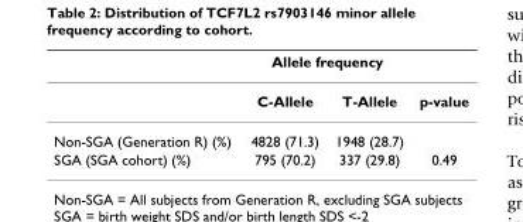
<table><thead><tr><td rowspan="2"></td><td colspan="2">Allele frequency</td><td rowspan="2">p-value</td></tr><tr><td>C-Allele</td><td>T-Allele</td></tr></thead><tbody><tr><td>Non-SGA (Generation R) (%)</td><td>4828 (71.3)</td><td>1948 (28.7)</td><td></td></tr><tr><td>SGA (SGA cohort) (%)</td><td>795 (70.2)</td><td>337 (29.8)</td><td>0.49</td></tr></tbody></table>